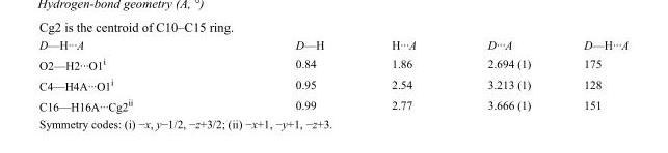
<table><tbody><tr><td>D—H···A</td><td>D—H</td><td>H···A</td><td>D···A</td><td>D—H···A</td></tr><tr><td>O2—H2···O1<sup>i</sup></td><td>0.84</td><td>1.86</td><td>2.694 (1)</td><td>175</td></tr><tr><td>C4—H4A···O1<sup>i</sup></td><td>0.95</td><td>2.54</td><td>3.213 (1)</td><td>128</td></tr><tr><td>C16—H16A···Cg2<sup>ii</sup></td><td>0.99</td><td>2.77</td><td>3.666 (1)</td><td>151</td></tr></tbody></table>